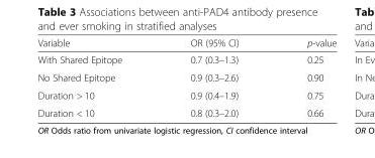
<table><thead><tr><td>Variable</td><td>OR (95% CI)</td><td>p-value</td></tr></thead><tbody><tr><td>With Shared Epitope</td><td>0.7 (0.3–1.3)</td><td>0.25</td></tr><tr><td>No Shared Epitope</td><td>0.9 (0.3–2.6)</td><td>0.90</td></tr><tr><td>Duration &gt; 10</td><td>0.9 (0.4–1.9)</td><td>0.75</td></tr><tr><td>Duration &lt; 10</td><td>0.8 (0.3–2.0)</td><td>0.66</td></tr></tbody></table>